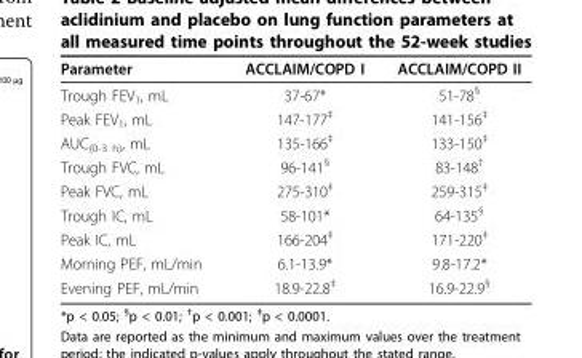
<table><thead><tr><td>Parameter</td><td>ACCLAIM/COPD I</td><td>ACCLAIM/COPD II</td></tr></thead><tbody><tr><td>Trough FEV<sub>1</sub>, mL</td><td>37-67*</td><td>51-78<sup>§</sup></td></tr><tr><td>Peak FEV<sub>1</sub>, mL</td><td>147-177<sup>‡</sup></td><td>141-156<sup>‡</sup></td></tr><tr><td>AUC<sub>(0-3 h)</sub>, mL</td><td>135-166<sup>‡</sup></td><td>133-150<sup>‡</sup></td></tr><tr><td>Trough FVC, mL</td><td>96-141<sup>§</sup></td><td>83-148<sup>†</sup></td></tr><tr><td>Peak FVC, mL</td><td>275-310<sup>‡</sup></td><td>259-315<sup>‡</sup></td></tr><tr><td>Trough IC, mL</td><td>58-101*</td><td>64-135<sup>§</sup></td></tr><tr><td>Peak IC, mL</td><td>166-204<sup>‡</sup></td><td>171-220<sup>‡</sup></td></tr><tr><td>Morning PEF, mL/min</td><td>6.1-13.9*</td><td>9.8-17.2*</td></tr><tr><td>Evening PEF, mL/min</td><td>18.9-22.8<sup>‡</sup></td><td>16.9-22.9<sup>§</sup></td></tr></tbody></table>